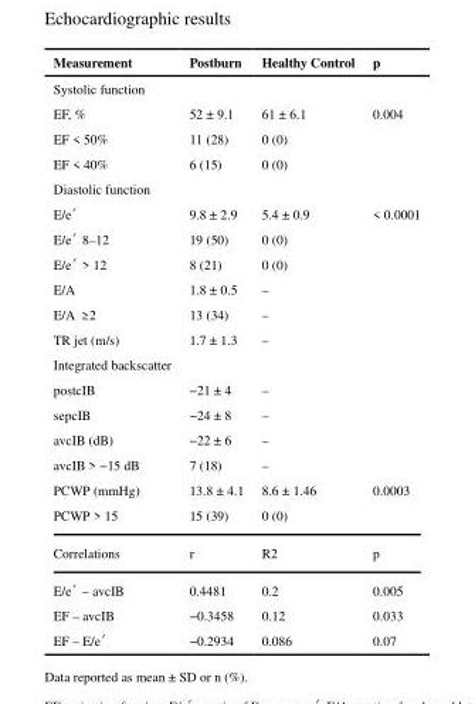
<table><thead><tr><td>Measurement</td><td>Postburn</td><td>Healthy Control</td><td>p</td></tr></thead><tbody><tr><td colspan="4">Systolic function</td></tr><tr><td>EF, %</td><td>52 ± 9.1</td><td>61 ± 6.1</td><td>0.004</td></tr><tr><td>EF &lt; 50%</td><td>11 (28)</td><td>0 (0)</td><td></td></tr><tr><td>EF &lt; 40%</td><td>6 (15)</td><td>0 (0)</td><td></td></tr><tr><td colspan="4">Diastolic function</td></tr><tr><td>E/e′</td><td>9.8 ± 2.9</td><td>5.4 ± 0.9</td><td>&lt; 0.0001</td></tr><tr><td>E/e′ 8–12</td><td>19 (50)</td><td>0 (0)</td><td></td></tr><tr><td>E/e′ &gt; 12</td><td>8 (21)</td><td>0 (0)</td><td></td></tr><tr><td>E/A</td><td>1.8 ± 0.5</td><td>–</td><td></td></tr><tr><td>E/A ≥ 2</td><td>13 (34)</td><td>–</td><td></td></tr><tr><td>TR jet (m/s)</td><td>1.7 ± 1.3</td><td>–</td><td></td></tr><tr><td colspan="4">Integrated backscatter</td></tr><tr><td>postcIB</td><td>−21 ± 4</td><td>–</td><td></td></tr><tr><td>sepcIB</td><td>−24 ± 8</td><td>–</td><td></td></tr><tr><td>avcIB (dB)</td><td>−22 ± 6</td><td>–</td><td></td></tr><tr><td>avcIB &gt; −15 dB</td><td>7 (18)</td><td>–</td><td></td></tr><tr><td>PCWP (mmHg)</td><td>13.8 ± 4.1</td><td>8.6 ± 1.46</td><td>0.0003</td></tr><tr><td>PCWP &gt; 15</td><td>15 (39)</td><td>0 (0)</td><td></td></tr><tr><td>Correlations</td><td>r</td><td>R2</td><td>p</td></tr><tr><td>E/e′ – avcIB</td><td>0.4481</td><td>0.2</td><td>0.005</td></tr><tr><td>EF – avcIB</td><td>−0.3458</td><td>0.12</td><td>0.033</td></tr><tr><td>EF – E/e′</td><td>−0.2934</td><td>0.086</td><td>0.07</td></tr></tbody></table>